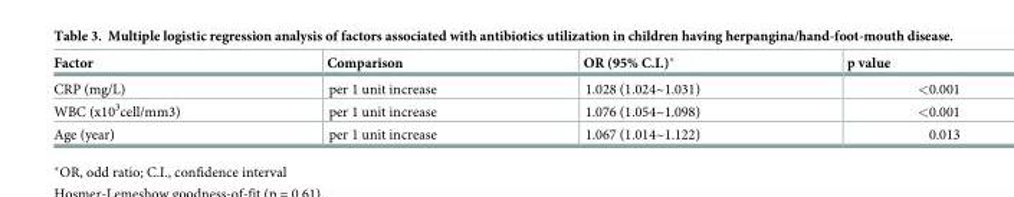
<table><thead><tr><td>Factor</td><td>Comparison</td><td>OR (95% C.I.)*</td><td>p value</td></tr></thead><tbody><tr><td>CRP (mg/L)</td><td>per 1 unit increase</td><td>1.028 (1.024~1.031)</td><td>&lt;0.001</td></tr><tr><td>WBC (x10<sup>3</sup>cell/mm3)</td><td>per 1 unit increase</td><td>1.076 (1.054~1.098)</td><td>&lt;0.001</td></tr><tr><td>Age (year)</td><td>per 1 unit increase</td><td>1.067 (1.014~1.122)</td><td>0.013</td></tr></tbody></table>